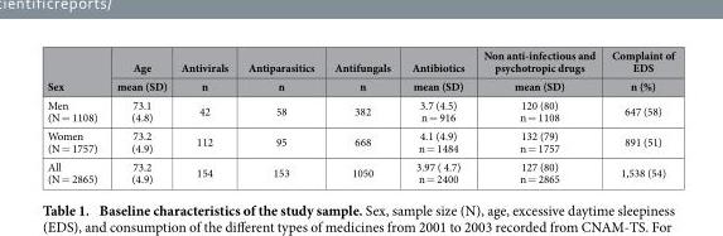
<table><thead><tr><td rowspan="2">Sex</td><td rowspan="2">Age mean (SD)</td><td rowspan="2">Antivirals n</td><td rowspan="2">Antiparasitics n</td><td rowspan="2">Antifungals n</td><td rowspan="2">Antibiotics mean (SD)</td><td rowspan="2">Non anti-infectious and psychotropic drugs mean (SD)</td><td rowspan="2">Complaint of EDS n (%)</td></tr><tr></tr></thead><tbody><tr><td>Men (N = 1108)</td><td>73.1 (4.8)</td><td>42</td><td>58</td><td>382</td><td>3.7 (4.5) n = 916</td><td>120 (80) n = 1108</td><td>647 (58)</td></tr><tr><td>Women (N = 1757)</td><td>73.2 (4.9)</td><td>112</td><td>95</td><td>668</td><td>4.1 (4.9) n = 1484</td><td>132 (79) n = 1757</td><td>891 (51)</td></tr><tr><td>All (N = 2865)</td><td>73.2 (4.9)</td><td>154</td><td>153</td><td>1050</td><td>3.97 ( 4.7) n = 2400</td><td>127 (80) n = 2865</td><td>1,538 (54)</td></tr></tbody></table>